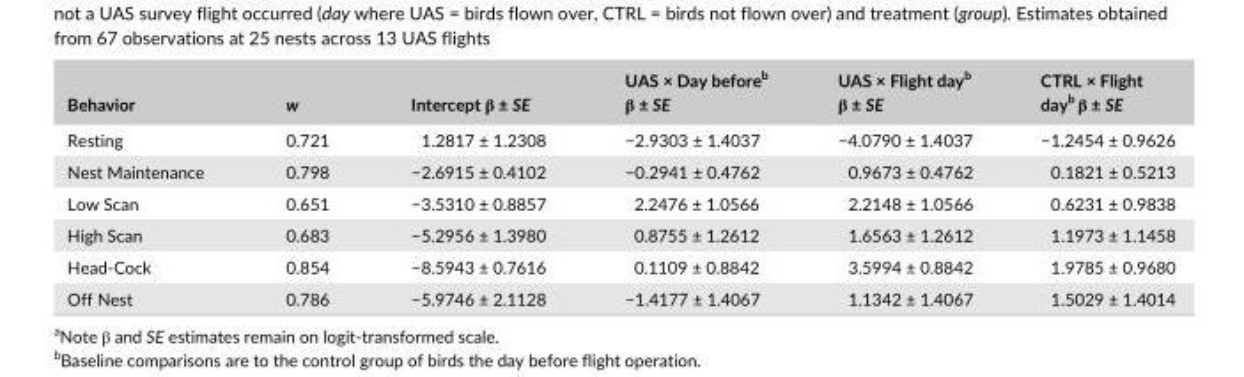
<table><thead><tr><td>Behavior</td><td>w</td><td>Intercept β ± SE</td><td>UAS × Day before<sup>b</sup> β ± SE</td><td>UAS × Flight day<sup>b</sup> β ± SE</td><td>CTRL × Flight day<sup>b</sup> β ± SE</td></tr></thead><tbody><tr><td>Resting</td><td>0.721</td><td>1.2817 ± 1.2308</td><td>−2.9303 ± 1.4037</td><td>−4.0790 ± 1.4037</td><td>−1.2454 ± 0.9626</td></tr><tr><td>Nest Maintenance</td><td>0.798</td><td>−2.6915 ± 0.4102</td><td>−0.2941 ± 0.4762</td><td>0.9673 ± 0.4762</td><td>0.1821 ± 0.5213</td></tr><tr><td>Low Scan</td><td>0.651</td><td>−3.5310 ± 0.8857</td><td>2.2476 ± 1.0566</td><td>2.2148 ± 1.0566</td><td>0.6231 ± 0.9838</td></tr><tr><td>High Scan</td><td>0.683</td><td>−5.2956 ± 1.3980</td><td>0.8755 ± 1.2612</td><td>1.6563 ± 1.2612</td><td>1.1973 ± 1.1458</td></tr><tr><td>Head-Cock</td><td>0.854</td><td>−8.5943 ± 0.7616</td><td>0.1109 ± 0.8842</td><td>3.5994 ± 0.8842</td><td>1.9785 ± 0.9680</td></tr><tr><td>Off Nest</td><td>0.786</td><td>−5.9746 ± 2.1128</td><td>−1.4177 ± 1.4067</td><td>1.1342 ± 1.4067</td><td>1.5029 ± 1.4014</td></tr></tbody></table>